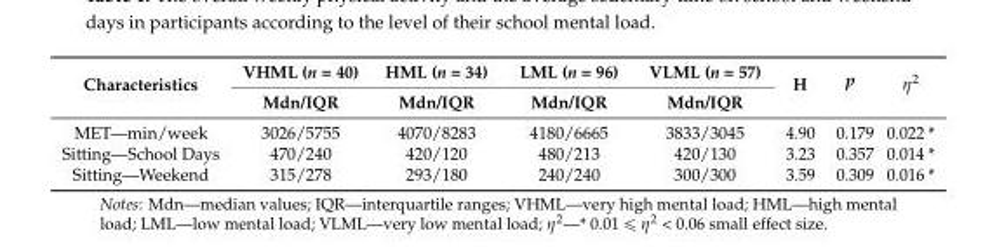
<table><thead><tr><td rowspan="2">Characteristics</td><td rowspan="2">VHML (n = 40) Mdn/IQR</td><td rowspan="2">HML (n = 34) Mdn/IQR</td><td rowspan="2">LML (n = 96) Mdn/IQR</td><td rowspan="2">VLML (n = 57) Mdn/IQR</td><td rowspan="2">H</td><td rowspan="2">p</td><td rowspan="2">η<sup>2</sup></td></tr><tr></tr></thead><tbody><tr><td>MET—min/week</td><td>3026/5755</td><td>4070/8283</td><td>4180/6665</td><td>3833/3045</td><td>4.90</td><td>0.179</td><td>0.022 *</td></tr><tr><td>Sitting—School Days</td><td>470/240</td><td>420/120</td><td>480/213</td><td>420/130</td><td>3.23</td><td>0.357</td><td>0.014 *</td></tr><tr><td>Sitting—Weekend</td><td>315/278</td><td>293/180</td><td>240/240</td><td>300/300</td><td>3.59</td><td>0.309</td><td>0.016 *</td></tr></tbody></table>